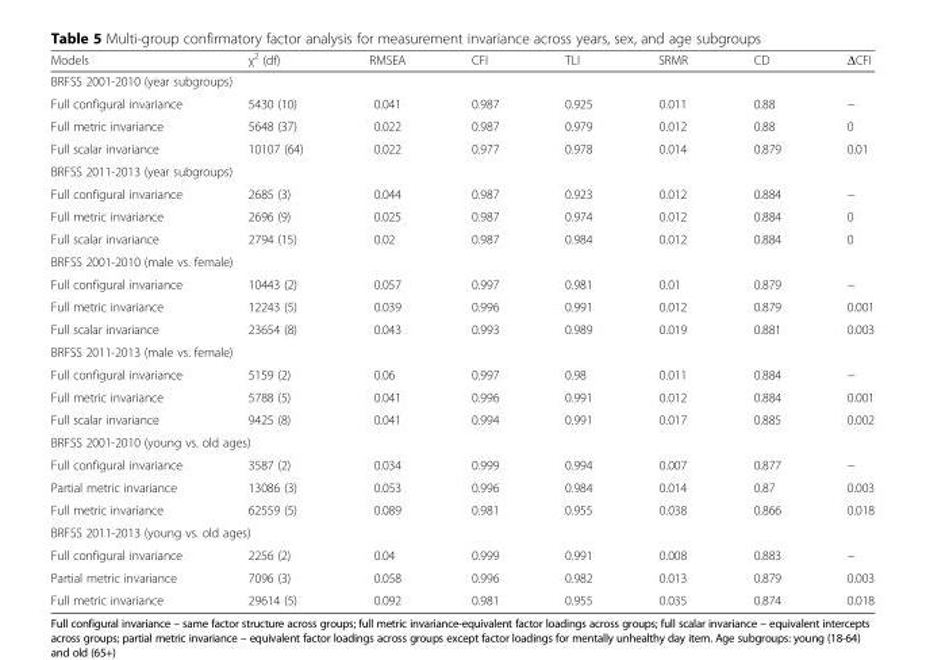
<table><thead><tr><td>Models</td><td>χ<sup>2</sup> (df)</td><td>RMSEA</td><td>CFI</td><td>TLI</td><td>SRMR</td><td>CD</td><td>ΔCFI</td></tr></thead><tbody><tr><td colspan="8">BRFSS 2001-2010 (year subgroups)</td></tr><tr><td>Full configural invariance</td><td>5430 (10)</td><td>0.041</td><td>0.987</td><td>0.925</td><td>0.011</td><td>0.88</td><td>−</td></tr><tr><td>Full metric invariance</td><td>5648 (37)</td><td>0.022</td><td>0.987</td><td>0.979</td><td>0.012</td><td>0.88</td><td>0</td></tr><tr><td>Full scalar invariance</td><td>10107 (64)</td><td>0.022</td><td>0.977</td><td>0.978</td><td>0.014</td><td>0.879</td><td>0.01</td></tr><tr><td colspan="8">BRFSS 2011-2013 (year subgroups)</td></tr><tr><td>Full configural invariance</td><td>2685 (3)</td><td>0.044</td><td>0.987</td><td>0.923</td><td>0.012</td><td>0.884</td><td>−</td></tr><tr><td>Full metric invariance</td><td>2696 (9)</td><td>0.025</td><td>0.987</td><td>0.974</td><td>0.012</td><td>0.884</td><td>0</td></tr><tr><td>Full scalar invariance</td><td>2794 (15)</td><td>0.02</td><td>0.987</td><td>0.984</td><td>0.012</td><td>0.884</td><td>0</td></tr><tr><td colspan="8">BRFSS 2001-2010 (male vs. female)</td></tr><tr><td>Full configural invariance</td><td>10443 (2)</td><td>0.057</td><td>0.997</td><td>0.981</td><td>0.01</td><td>0.879</td><td>−</td></tr><tr><td>Full metric invariance</td><td>12243 (5)</td><td>0.039</td><td>0.996</td><td>0.991</td><td>0.012</td><td>0.879</td><td>0.001</td></tr><tr><td>Full scalar invariance</td><td>23654 (8)</td><td>0.043</td><td>0.993</td><td>0.989</td><td>0.019</td><td>0.881</td><td>0.003</td></tr><tr><td colspan="8">BRFSS 2011-2013 (male vs. female)</td></tr><tr><td>Full configural invariance</td><td>5159 (2)</td><td>0.06</td><td>0.997</td><td>0.98</td><td>0.011</td><td>0.884</td><td>−</td></tr><tr><td>Full metric invariance</td><td>5788 (5)</td><td>0.041</td><td>0.996</td><td>0.991</td><td>0.012</td><td>0.884</td><td>0.001</td></tr><tr><td>Full scalar invariance</td><td>9425 (8)</td><td>0.041</td><td>0.994</td><td>0.991</td><td>0.017</td><td>0.885</td><td>0.002</td></tr><tr><td colspan="8">BRFSS 2001-2010 (young vs. old ages)</td></tr><tr><td>Full configural invariance</td><td>3587 (2)</td><td>0.034</td><td>0.999</td><td>0.994</td><td>0.007</td><td>0.877</td><td>−</td></tr><tr><td>Partial metric invariance</td><td>13086 (3)</td><td>0.053</td><td>0.996</td><td>0.984</td><td>0.014</td><td>0.87</td><td>0.003</td></tr><tr><td>Full metric invariance</td><td>62559 (5)</td><td>0.089</td><td>0.981</td><td>0.955</td><td>0.038</td><td>0.866</td><td>0.018</td></tr><tr><td colspan="8">BRFSS 2011-2013 (young vs. old ages)</td></tr><tr><td>Full configural invariance</td><td>2256 (2)</td><td>0.04</td><td>0.999</td><td>0.991</td><td>0.008</td><td>0.883</td><td>−</td></tr><tr><td>Partial metric invariance</td><td>7096 (3)</td><td>0.058</td><td>0.996</td><td>0.982</td><td>0.013</td><td>0.879</td><td>0.003</td></tr><tr><td>Full metric invariance</td><td>29614 (5)</td><td>0.092</td><td>0.981</td><td>0.955</td><td>0.035</td><td>0.874</td><td>0.018</td></tr></tbody></table>